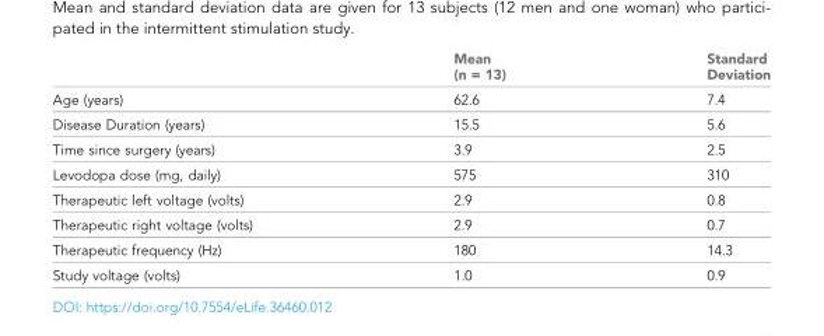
<table><thead><tr><td></td><td>Mean (n = 13)</td><td>Standard Deviation</td></tr></thead><tbody><tr><td>Age (years)</td><td>62.6</td><td>7.4</td></tr><tr><td>Disease Duration (years)</td><td>15.5</td><td>5.6</td></tr><tr><td>Time since surgery (years)</td><td>3.9</td><td>2.5</td></tr><tr><td>Levodopa dose (mg, daily)</td><td>575</td><td>310</td></tr><tr><td>Therapeutic left voltage (volts)</td><td>2.9</td><td>0.8</td></tr><tr><td>Therapeutic right voltage (volts)</td><td>2.9</td><td>0.7</td></tr><tr><td>Therapeutic frequency (Hz)</td><td>180</td><td>14.3</td></tr><tr><td>Study voltage (volts)</td><td>1.0</td><td>0.9</td></tr></tbody></table>